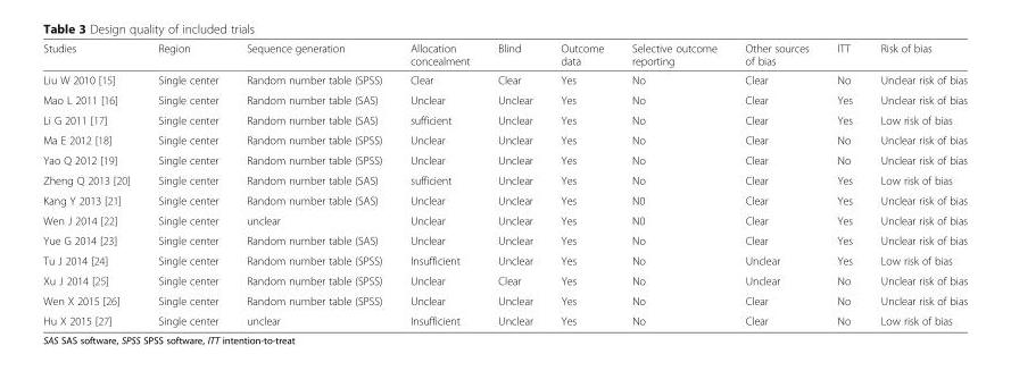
<table><thead><tr><td>Studies</td><td>Region</td><td>Sequence generation</td><td>Allocation concealment</td><td>Blind</td><td>Outcome data</td><td>Selective outcome reporting</td><td>Other sources of bias</td><td>ITT</td><td>Risk of bias</td></tr></thead><tbody><tr><td>Liu W 2010 [15]</td><td>Single center</td><td>Random number table (SPSS)</td><td>Clear</td><td>Clear</td><td>Yes</td><td>No</td><td>Clear</td><td>No</td><td>Unclear risk of bias</td></tr><tr><td>Mao L 2011 [16]</td><td>Single center</td><td>Random number table (SAS)</td><td>Unclear</td><td>Unclear</td><td>Yes</td><td>No</td><td>Clear</td><td>Yes</td><td>Unclear risk of bias</td></tr><tr><td>Li G 2011 [17]</td><td>Single center</td><td>Random number table (SAS)</td><td>sufficient</td><td>Unclear</td><td>Yes</td><td>No</td><td>Clear</td><td>Yes</td><td>Low risk of bias</td></tr><tr><td>Ma E 2012 [18]</td><td>Single center</td><td>Random number table (SPSS)</td><td>Unclear</td><td>Unclear</td><td>Yes</td><td>No</td><td>Clear</td><td>No</td><td>Unclear risk of bias</td></tr><tr><td>Yao Q 2012 [19]</td><td>Single center</td><td>Random number table (SPSS)</td><td>Unclear</td><td>Unclear</td><td>Yes</td><td>No</td><td>Clear</td><td>No</td><td>Unclear risk of bias</td></tr><tr><td>Zheng Q 2013 [20]</td><td>Single center</td><td>Random number table (SAS)</td><td>sufficient</td><td>Unclear</td><td>Yes</td><td>No</td><td>Clear</td><td>Yes</td><td>Low risk of bias</td></tr><tr><td>Kang Y 2013 [21]</td><td>Single center</td><td>Random number table (SAS)</td><td>Unclear</td><td>Unclear</td><td>Yes</td><td>N0</td><td>Clear</td><td>Yes</td><td>Unclear risk of bias</td></tr><tr><td>Wen J 2014 [22]</td><td>Single center</td><td>unclear</td><td>Unclear</td><td>Unclear</td><td>Yes</td><td>N0</td><td>Clear</td><td>Yes</td><td>Unclear risk of bias</td></tr><tr><td>Yue G 2014 [23]</td><td>Single center</td><td>Random number table (SAS)</td><td>Unclear</td><td>Unclear</td><td>Yes</td><td>No</td><td>Clear</td><td>Yes</td><td>Unclear risk of bias</td></tr><tr><td>Tu J 2014 [24]</td><td>Single center</td><td>Random number table (SPSS)</td><td>Insufficient</td><td>Unclear</td><td>Yes</td><td>No</td><td>Unclear</td><td>Yes</td><td>Low risk of bias</td></tr><tr><td>Xu J 2014 [25]</td><td>Single center</td><td>Random number table (SPSS)</td><td>Unclear</td><td>Clear</td><td>Yes</td><td>No</td><td>Unclear</td><td>No</td><td>Unclear risk of bias</td></tr><tr><td>Wen X 2015 [26]</td><td>Single center</td><td>Random number table (SPSS)</td><td>Unclear</td><td>Unclear</td><td>Yes</td><td>No</td><td>Clear</td><td>No</td><td>Unclear risk of bias</td></tr><tr><td>Hu X 2015 [27]</td><td>Single center</td><td>unclear</td><td>Insufficient</td><td>Unclear</td><td>Yes</td><td>No</td><td>Clear</td><td>No</td><td>Low risk of bias</td></tr></tbody></table>